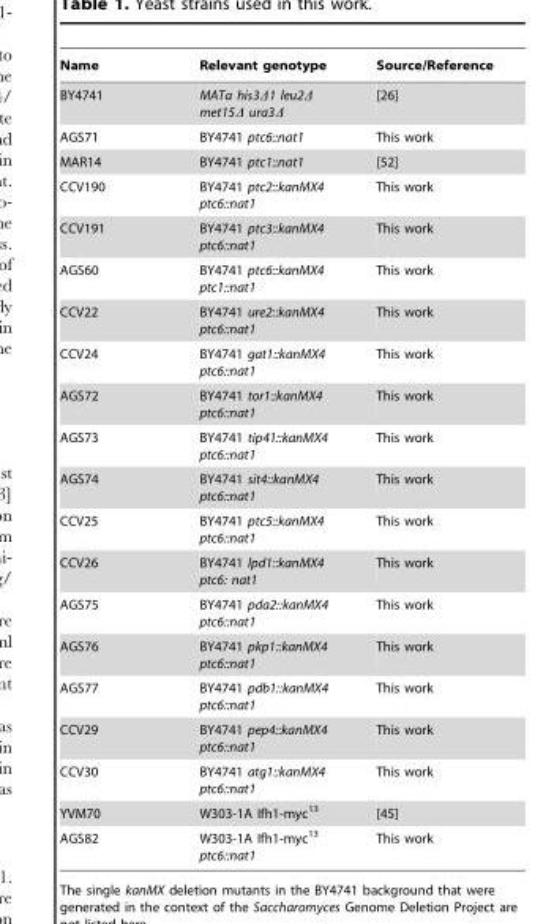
<table><thead><tr><td>Name</td><td>Relevant genotype</td><td>Source/Reference</td></tr></thead><tbody><tr><td>BY4741</td><td>MATa his3Δ1 leu2Δ met15Δ ura3Δ</td><td>[26]</td></tr><tr><td>AGS71</td><td>BY4741 ptc6::nat1</td><td>This work</td></tr><tr><td>MAR14</td><td>BY4741 ptc1::nat1</td><td>[52]</td></tr><tr><td>CCV190</td><td>BY4741 ptc2::kanMX4 ptc6::nat1</td><td>This work</td></tr><tr><td>CCV191</td><td>BY4741 ptc3::kanMX4 ptc6::nat1</td><td>This work</td></tr><tr><td>AGS60</td><td>BY4741 ptc6::kanMX4 ptc1::nat1</td><td>This work</td></tr><tr><td>CCV22</td><td>BY4741 ure2::kanMX4 ptc6::nat1</td><td>This work</td></tr><tr><td>CCV24</td><td>BY4741 gat1::kanMX4 ptc6::nat1</td><td>This work</td></tr><tr><td>AGS72</td><td>BY4741 tor1::kanMX4 ptc6::nat1</td><td>This work</td></tr><tr><td>AGS73</td><td>BY4741 tip41::kanMX4 ptc6::nat1</td><td>This work</td></tr><tr><td>AGS74</td><td>BY4741 sit4::kanMX4 ptc6::nat1</td><td>This work</td></tr><tr><td>CCV25</td><td>BY4741 ptc5::kanMX4 ptc6::nat1</td><td>This work</td></tr><tr><td>CCV26</td><td>BY4741 lpd1::kanMX4 ptc6: nat1</td><td>This work</td></tr><tr><td>AGS75</td><td>BY4741 pda2::kanMX4 ptc6::nat1</td><td>This work</td></tr><tr><td>AGS76</td><td>BY4741 pkp1::kanMX4 ptc6::nat1</td><td>This work</td></tr><tr><td>AGS77</td><td>BY4741 pdb1::kanMX4 ptc6::nat1</td><td>This work</td></tr><tr><td>CCV29</td><td>BY4741 pep4::kanMX4 ptc6::nat1</td><td>This work</td></tr><tr><td>CCV30</td><td>BY4741 atg1::kanMX4 ptc6::nat1</td><td>This work</td></tr><tr><td>YVM70</td><td>W303-1A Ifh1-myc<sup>13</sup></td><td>[45]</td></tr><tr><td>AGS82</td><td>W303-1A Ifh1-myc<sup>13</sup> ptc6::nat1</td><td>This work</td></tr></tbody></table>